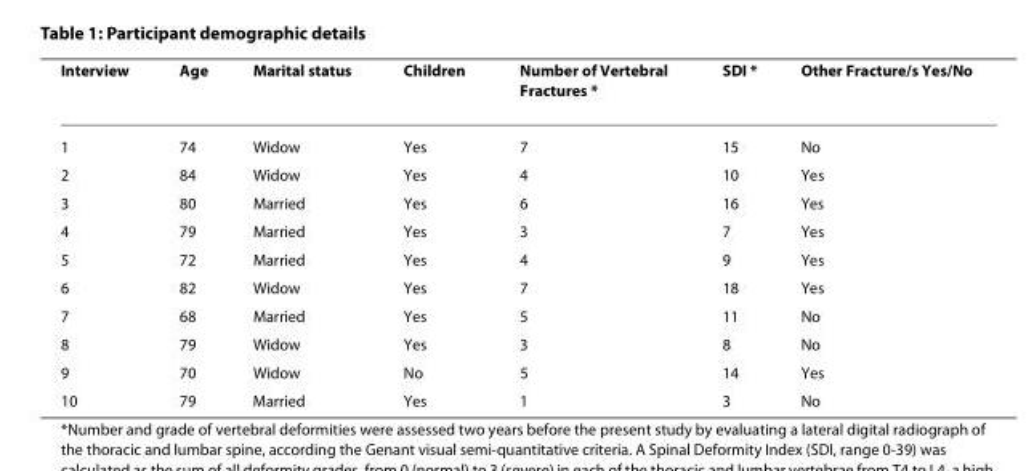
<table><thead><tr><td>Interview</td><td>Age</td><td>Marital status</td><td>Children</td><td>Number of Vertebral Fractures *</td><td>SDI *</td><td>Other Fracture/s Yes/No</td></tr></thead><tbody><tr><td>1</td><td>74</td><td>Widow</td><td>Yes</td><td>7</td><td>15</td><td>No</td></tr><tr><td>2</td><td>84</td><td>Widow</td><td>Yes</td><td>4</td><td>10</td><td>Yes</td></tr><tr><td>3</td><td>80</td><td>Married</td><td>Yes</td><td>6</td><td>16</td><td>Yes</td></tr><tr><td>4</td><td>79</td><td>Married</td><td>Yes</td><td>3</td><td>7</td><td>Yes</td></tr><tr><td>5</td><td>72</td><td>Married</td><td>Yes</td><td>4</td><td>9</td><td>Yes</td></tr><tr><td>6</td><td>82</td><td>Widow</td><td>Yes</td><td>7</td><td>18</td><td>Yes</td></tr><tr><td>7</td><td>68</td><td>Married</td><td>Yes</td><td>5</td><td>11</td><td>No</td></tr><tr><td>8</td><td>79</td><td>Widow</td><td>Yes</td><td>3</td><td>8</td><td>No</td></tr><tr><td>9</td><td>70</td><td>Widow</td><td>No</td><td>5</td><td>14</td><td>Yes</td></tr><tr><td>10</td><td>79</td><td>Married</td><td>Yes</td><td>1</td><td>3</td><td>No</td></tr></tbody></table>